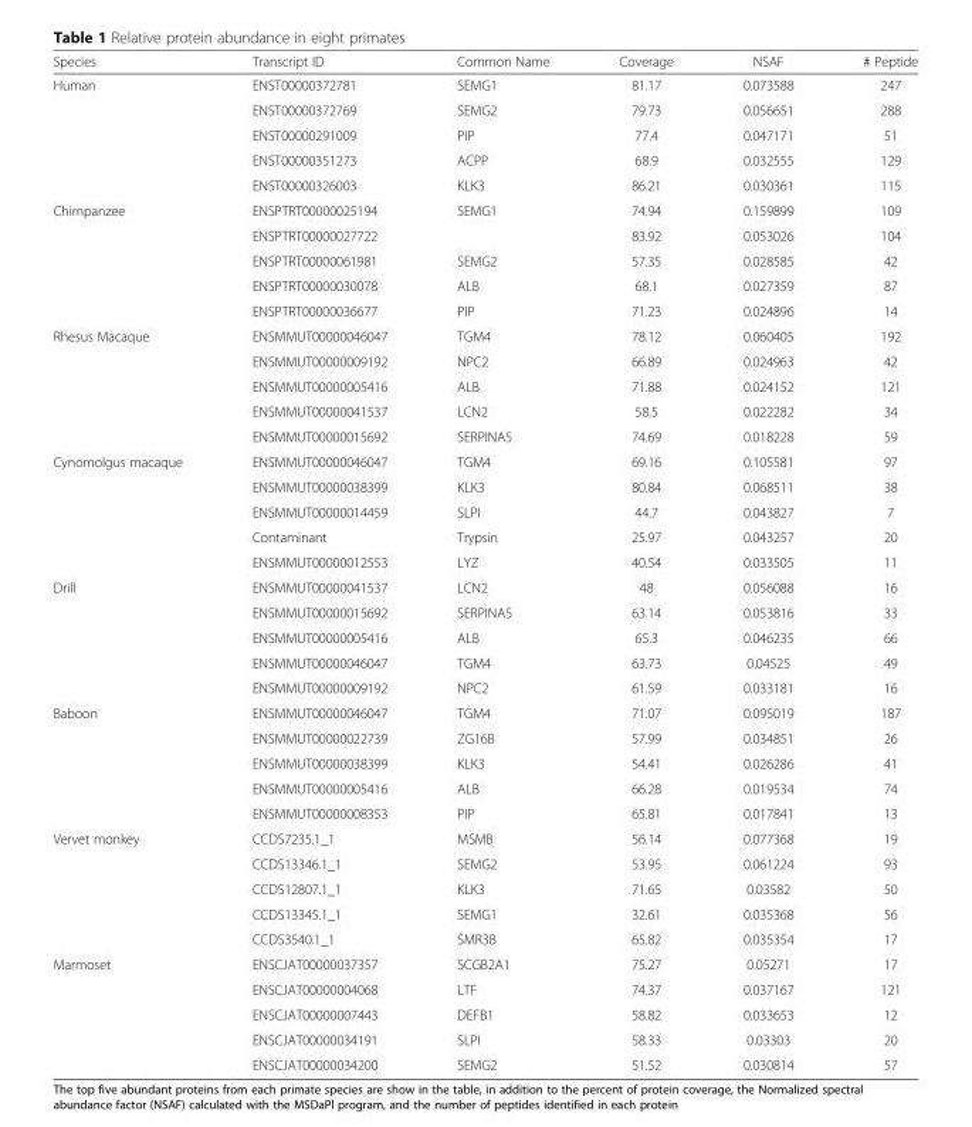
<table><thead><tr><td>Species</td><td>Transcript ID</td><td>Common Name</td><td>Coverage</td><td>NSAF</td><td># Peptide</td></tr></thead><tbody><tr><td rowspan="5">Human</td><td>ENST00000372781</td><td>SEMG1</td><td>81.17</td><td>0.073588</td><td>247</td></tr><tr><td>ENST00000372769</td><td>SEMG2</td><td>79.73</td><td>0.056651</td><td>288</td></tr><tr><td>ENST00000291009</td><td>PIP</td><td>77.4</td><td>0.047171</td><td>51</td></tr><tr><td>ENST00000351273</td><td>ACPP</td><td>68.9</td><td>0.032555</td><td>129</td></tr><tr><td>ENST00000326003</td><td>KLK3</td><td>86.21</td><td>0.030361</td><td>115</td></tr><tr><td rowspan="5">Chimpanzee</td><td>ENSPTRT00000025194</td><td>SEMG1</td><td>74.94</td><td>0.159899</td><td>109</td></tr><tr><td>ENSPTRT00000027722</td><td></td><td>83.92</td><td>0.053026</td><td>104</td></tr><tr><td>ENSPTRT00000061981</td><td>SEMG2</td><td>57.35</td><td>0.028585</td><td>42</td></tr><tr><td>ENSPTRT00000030078</td><td>ALB</td><td>68.1</td><td>0.027359</td><td>87</td></tr><tr><td>ENSPTRT00000036677</td><td>PIP</td><td>71.23</td><td>0.024896</td><td>14</td></tr><tr><td rowspan="5">Rhesus Macaque</td><td>ENSMMUT00000046047</td><td>TGM4</td><td>78.12</td><td>0.060405</td><td>192</td></tr><tr><td>ENSMMUT00000009192</td><td>NPC2</td><td>66.89</td><td>0.024963</td><td>42</td></tr><tr><td>ENSMMUT00000005416</td><td>ALB</td><td>71.88</td><td>0.024152</td><td>121</td></tr><tr><td>ENSMMUT00000041537</td><td>LCN2</td><td>58.5</td><td>0.022282</td><td>34</td></tr><tr><td>ENSMMUT00000015692</td><td>SERPINA5</td><td>74.69</td><td>0.018228</td><td>59</td></tr><tr><td rowspan="5">Cynomolgus macaque</td><td>ENSMMUT00000046047</td><td>TGM4</td><td>69.16</td><td>0.105581</td><td>97</td></tr><tr><td>ENSMMUT00000038399</td><td>KLK3</td><td>80.84</td><td>0.068511</td><td>38</td></tr><tr><td>ENSMMUT00000014459</td><td>SLPI</td><td>44.7</td><td>0.043827</td><td>7</td></tr><tr><td>Contaminant</td><td>Trypsin</td><td>25.97</td><td>0.043257</td><td>20</td></tr><tr><td>ENSMMUT00000012553</td><td>LYZ</td><td>40.54</td><td>0.033505</td><td>11</td></tr><tr><td rowspan="5">Drill</td><td>ENSMMUT00000041537</td><td>LCN2</td><td>48</td><td>0.056088</td><td>16</td></tr><tr><td>ENSMMUT00000015692</td><td>SERPINA5</td><td>63.14</td><td>0.053816</td><td>33</td></tr><tr><td>ENSMMUT00000005416</td><td>ALB</td><td>65.3</td><td>0.046235</td><td>66</td></tr><tr><td>ENSMMUT00000046047</td><td>TGM4</td><td>63.73</td><td>0.04525</td><td>49</td></tr><tr><td>ENSMMUT00000009192</td><td>NPC2</td><td>61.59</td><td>0.033181</td><td>16</td></tr><tr><td rowspan="5">Baboon</td><td>ENSMMUT00000046047</td><td>TGM4</td><td>71.07</td><td>0.095019</td><td>187</td></tr><tr><td>ENSMMUT00000022739</td><td>ZG16B</td><td>57.99</td><td>0.034851</td><td>26</td></tr><tr><td>ENSMMUT00000038399</td><td>KLK3</td><td>54.41</td><td>0.026286</td><td>41</td></tr><tr><td>ENSMMUT00000005416</td><td>ALB</td><td>66.28</td><td>0.019534</td><td>74</td></tr><tr><td>ENSMMUT00000008353</td><td>PIP</td><td>65.81</td><td>0.017841</td><td>13</td></tr><tr><td rowspan="5">Vervet monkey</td><td>CCDS7235.1_1</td><td>MSMB</td><td>56.14</td><td>0.077368</td><td>19</td></tr><tr><td>CCDS13346.1_1</td><td>SEMG2</td><td>53.95</td><td>0.061224</td><td>93</td></tr><tr><td>CCDS12807.1_1</td><td>KLK3</td><td>71.65</td><td>0.03582</td><td>50</td></tr><tr><td>CCDS13345.1_1</td><td>SEMG1</td><td>32.61</td><td>0.035368</td><td>56</td></tr><tr><td>CCDS3540.1_1</td><td>SMR3B</td><td>65.82</td><td>0.035354</td><td>17</td></tr><tr><td rowspan="5">Marmoset</td><td>ENSCJAT00000037357</td><td>SCGB2A1</td><td>75.27</td><td>0.05271</td><td>17</td></tr><tr><td>ENSCJAT00000004068</td><td>LTF</td><td>74.37</td><td>0.037167</td><td>121</td></tr><tr><td>ENSCJAT00000007443</td><td>DEFB1</td><td>58.82</td><td>0.033653</td><td>12</td></tr><tr><td>ENSCJAT00000034191</td><td>SLPI</td><td>58.33</td><td>0.03303</td><td>20</td></tr><tr><td>ENSCJAT00000034200</td><td>SEMG2</td><td>51.52</td><td>0.030814</td><td>57</td></tr></tbody></table>